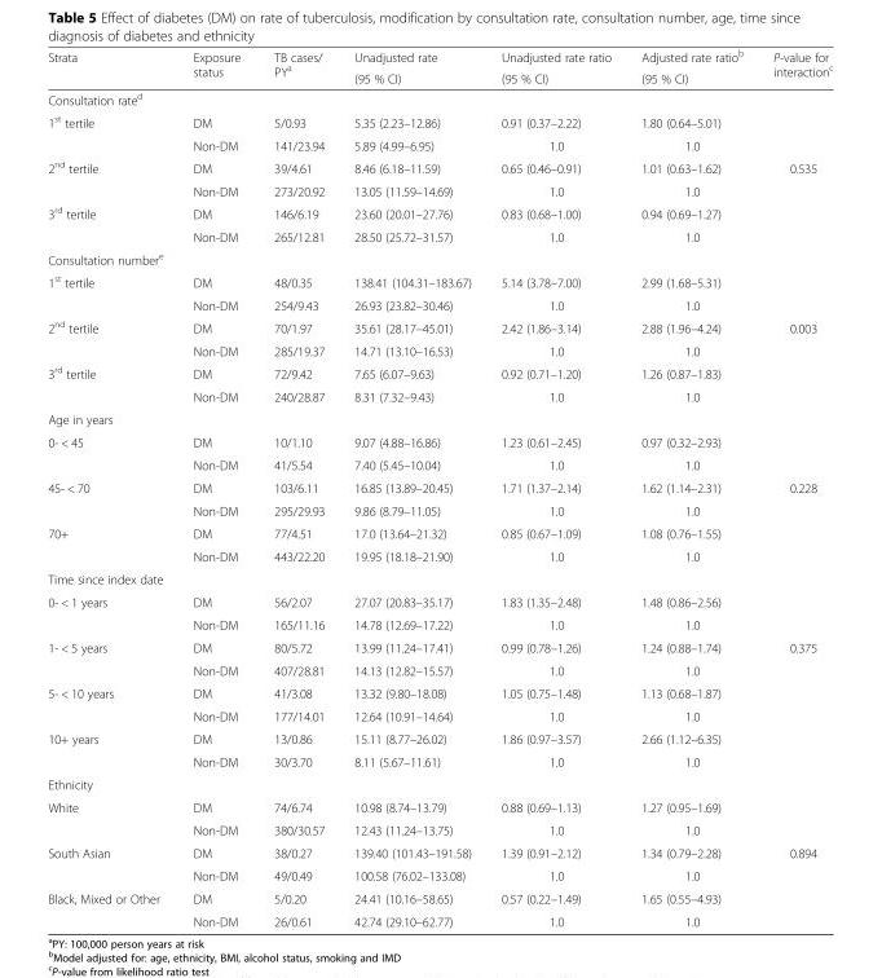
<table><thead><tr><td rowspan="2">Strata</td><td rowspan="2">Exposure status</td><td rowspan="2">TB cases/ PY<sup>a</sup></td><td rowspan="2">Unadjusted rate (95 % CI)</td><td rowspan="2">Unadjusted rate ratio (95 % CI)</td><td rowspan="2">Adjusted rate ratio<sup>b</sup> (95 % CI)</td><td rowspan="2">P-value for interaction<sup>c</sup></td></tr><tr></tr></thead><tbody><tr><td colspan="7">Consultation rate<sup>d</sup></td></tr><tr><td rowspan="2">1<sup>st</sup> tertile</td><td>DM</td><td>5/0.93</td><td>5.35 (2.23–12.86)</td><td>0.91 (0.37–2.22)</td><td>1.80 (0.64–5.01)</td><td></td></tr><tr><td>Non-DM</td><td>141/23.94</td><td>5.89 (4.99–6.95)</td><td>1.0</td><td>1.0</td><td></td></tr><tr><td rowspan="2">2<sup>nd</sup> tertile</td><td>DM</td><td>39/4.61</td><td>8.46 (6.18–11.59)</td><td>0.65 (0.46–0.91)</td><td>1.01 (0.63–1.62)</td><td>0.535</td></tr><tr><td>Non-DM</td><td>273/20.92</td><td>13.05 (11.59–14.69)</td><td>1.0</td><td>1.0</td><td></td></tr><tr><td rowspan="2">3<sup>rd</sup> tertile</td><td>DM</td><td>146/6.19</td><td>23.60 (20.01–27.76)</td><td>0.83 (0.68–1.00)</td><td>0.94 (0.69–1.27)</td><td></td></tr><tr><td>Non-DM</td><td>265/12.81</td><td>28.50 (25.72–31.57)</td><td>1.0</td><td>1.0</td><td></td></tr><tr><td colspan="7">Consultation number<sup>e</sup></td></tr><tr><td rowspan="2">1<sup>st</sup> tertile</td><td>DM</td><td>48/0.35</td><td>138.41 (104.31–183.67)</td><td>5.14 (3.78–7.00)</td><td>2.99 (1.68–5.31)</td><td></td></tr><tr><td>Non-DM</td><td>254/9.43</td><td>26.93 (23.82–30.46)</td><td>1.0</td><td>1.0</td><td></td></tr><tr><td rowspan="2">2<sup>nd</sup> tertile</td><td>DM</td><td>70/1.97</td><td>35.61 (28.17–45.01)</td><td>2.42 (1.86–3.14)</td><td>2.88 (1.96–4.24)</td><td>0.003</td></tr><tr><td>Non-DM</td><td>285/19.37</td><td>14.71 (13.10–16.53)</td><td>1.0</td><td>1.0</td><td></td></tr><tr><td rowspan="2">3<sup>rd</sup> tertile</td><td>DM</td><td>72/9.42</td><td>7.65 (6.07–9.63)</td><td>0.92 (0.71–1.20)</td><td>1.26 (0.87–1.83)</td><td></td></tr><tr><td>Non-DM</td><td>240/28.87</td><td>8.31 (7.32–9.43)</td><td>1.0</td><td>1.0</td><td></td></tr><tr><td colspan="7">Age in years</td></tr><tr><td rowspan="2">0- &lt; 45</td><td>DM</td><td>10/1.10</td><td>9.07 (4.88–16.86)</td><td>1.23 (0.61–2.45)</td><td>0.97 (0.32–2.93)</td><td></td></tr><tr><td>Non-DM</td><td>41/5.54</td><td>7.40 (5.45–10.04)</td><td>1.0</td><td>1.0</td><td></td></tr><tr><td rowspan="2">45- &lt; 70</td><td>DM</td><td>103/6.11</td><td>16.85 (13.89–20.45)</td><td>1.71 (1.37–2.14)</td><td>1.62 (1.14–2.31)</td><td>0.228</td></tr><tr><td>Non-DM</td><td>295/29.93</td><td>9.86 (8.79–11.05)</td><td>1.0</td><td>1.0</td><td></td></tr><tr><td rowspan="2">70+</td><td>DM</td><td>77/4.51</td><td>17.0 (13.64–21.32)</td><td>0.85 (0.67–1.09)</td><td>1.08 (0.76–1.55)</td><td></td></tr><tr><td>Non-DM</td><td>443/22.20</td><td>19.95 (18.18–21.90)</td><td>1.0</td><td>1.0</td><td></td></tr><tr><td colspan="7">Time since index date</td></tr><tr><td rowspan="2">0- &lt; 1 years</td><td>DM</td><td>56/2.07</td><td>27.07 (20.83–35.17)</td><td>1.83 (1.35–2.48)</td><td>1.48 (0.86–2.56)</td><td></td></tr><tr><td>Non-DM</td><td>165/11.16</td><td>14.78 (12.69–17.22)</td><td>1.0</td><td>1.0</td><td></td></tr><tr><td rowspan="2">1- &lt; 5 years</td><td>DM</td><td>80/5.72</td><td>13.99 (11.24–17.41)</td><td>0.99 (0.78–1.26)</td><td>1.24 (0.88–1.74)</td><td>0.375</td></tr><tr><td>Non-DM</td><td>407/28.81</td><td>14.13 (12.82–15.57)</td><td>1.0</td><td>1.0</td><td></td></tr><tr><td rowspan="2">5- &lt; 10 years</td><td>DM</td><td>41/3.08</td><td>13.32 (9.80–18.08)</td><td>1.05 (0.75–1.48)</td><td>1.13 (0.68–1.87)</td><td></td></tr><tr><td>Non-DM</td><td>177/14.01</td><td>12.64 (10.91–14.64)</td><td>1.0</td><td>1.0</td><td></td></tr><tr><td rowspan="2">10+ years</td><td>DM</td><td>13/0.86</td><td>15.11 (8.77–26.02)</td><td>1.86 (0.97–3.57)</td><td>2.66 (1.12–6.35)</td><td></td></tr><tr><td>Non-DM</td><td>30/3.70</td><td>8.11 (5.67–11.61)</td><td>1.0</td><td>1.0</td><td></td></tr><tr><td colspan="7">Ethnicity</td></tr><tr><td rowspan="2">White</td><td>DM</td><td>74/6.74</td><td>10.98 (8.74–13.79)</td><td>0.88 (0.69–1.13)</td><td>1.27 (0.95–1.69)</td><td></td></tr><tr><td>Non-DM</td><td>380/30.57</td><td>12.43 (11.24–13.75)</td><td>1.0</td><td>1.0</td><td></td></tr><tr><td rowspan="2">South Asian</td><td>DM</td><td>38/0.27</td><td>139.40 (101.43–191.58)</td><td>1.39 (0.91–2.12)</td><td>1.34 (0.79–2.28)</td><td>0.894</td></tr><tr><td>Non-DM</td><td>49/0.49</td><td>100.58 (76.02–133.08)</td><td>1.0</td><td>1.0</td><td></td></tr><tr><td rowspan="2">Black, Mixed or Other</td><td>DM</td><td>5/0.20</td><td>24.41 (10.16–58.65)</td><td>0.57 (0.22–1.49)</td><td>1.65 (0.55–4.93)</td><td></td></tr><tr><td>Non-DM</td><td>26/0.61</td><td>42.74 (29.10–62.77)</td><td>1.0</td><td>1.0</td><td></td></tr></tbody></table>